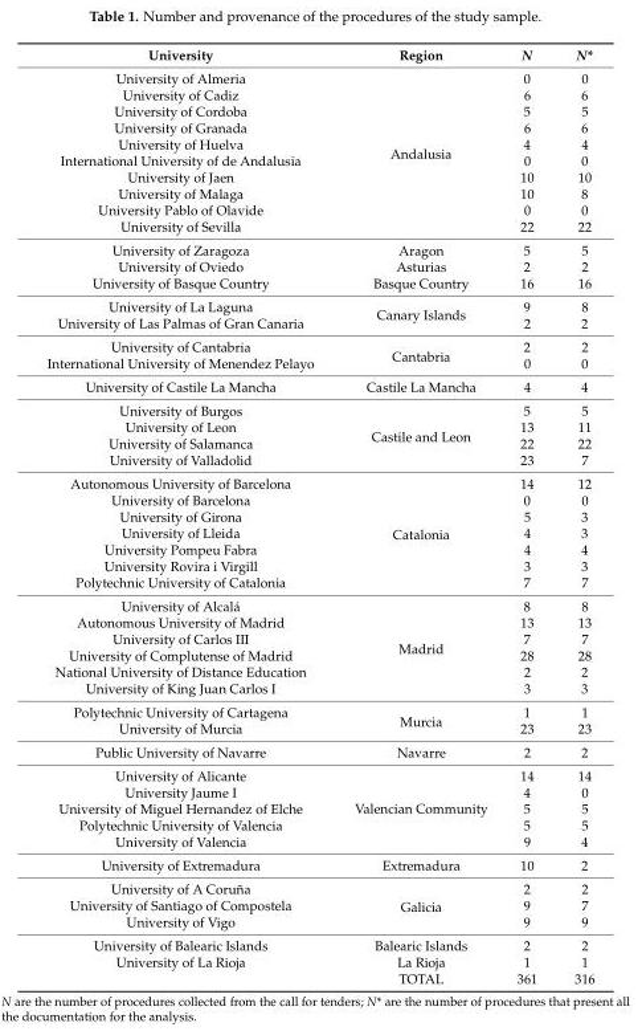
<table><thead><tr><td>University</td><td>Region</td><td>N</td><td>N*</td></tr></thead><tbody><tr><td>University of Almeria</td><td rowspan="10">Andalusia</td><td>0</td><td>0</td></tr><tr><td>University of Cadiz</td><td>6</td><td>6</td></tr><tr><td>University of Cordoba</td><td>5</td><td>5</td></tr><tr><td>University of Granada</td><td>6</td><td>6</td></tr><tr><td>University of Huelva</td><td>4</td><td>4</td></tr><tr><td>International University of de Andalusia</td><td>0</td><td>0</td></tr><tr><td>University of Jaen</td><td>10</td><td>10</td></tr><tr><td>University of Malaga</td><td>10</td><td>8</td></tr><tr><td>University Pablo of Olavide</td><td>0</td><td>0</td></tr><tr><td>University of Sevilla</td><td>22</td><td>22</td></tr><tr><td>University of Zaragoza</td><td>Aragon</td><td>5</td><td>5</td></tr><tr><td>University of Oviedo</td><td>Asturias</td><td>2</td><td>2</td></tr><tr><td>University of Basque Country</td><td>Basque Country</td><td>16</td><td>16</td></tr><tr><td>University of La Laguna</td><td rowspan="2">Canary Islands</td><td>9</td><td>8</td></tr><tr><td>University of Las Palmas of Gran Canaria</td><td>2</td><td>2</td></tr><tr><td>University of Cantabria</td><td rowspan="2">Cantabria</td><td>2</td><td>2</td></tr><tr><td>International University of Menendez Pelayo</td><td>0</td><td>0</td></tr><tr><td>University of Castile La Mancha</td><td>Castile La Mancha</td><td>4</td><td>4</td></tr><tr><td>University of Burgos</td><td rowspan="4">Castile and Leon</td><td>5</td><td>5</td></tr><tr><td>University of Leon</td><td>13</td><td>11</td></tr><tr><td>University of Salamanca</td><td>22</td><td>22</td></tr><tr><td>University of Valladolid</td><td>23</td><td>7</td></tr><tr><td>Autonomous University of Barcelona</td><td rowspan="7">Catalonia</td><td>14</td><td>12</td></tr><tr><td>University of Barcelona</td><td>0</td><td>0</td></tr><tr><td>University of Girona</td><td>5</td><td>3</td></tr><tr><td>University of Lleida</td><td>4</td><td>3</td></tr><tr><td>University Pompeu Fabra</td><td>4</td><td>4</td></tr><tr><td>University Rovira i Virgill</td><td>3</td><td>3</td></tr><tr><td>Polytechnic University of Catalonia</td><td>7</td><td>7</td></tr><tr><td>University of Alcalá</td><td rowspan="6">Madrid</td><td>8</td><td>8</td></tr><tr><td>Autonomous University of Madrid</td><td>13</td><td>13</td></tr><tr><td>University of Carlos III</td><td>7</td><td>7</td></tr><tr><td>University of Complutense of Madrid</td><td>28</td><td>28</td></tr><tr><td>National University of Distance Education</td><td>2</td><td>2</td></tr><tr><td>University of King Juan Carlos I</td><td>3</td><td>3</td></tr><tr><td>Polytechnic University of Cartagena</td><td rowspan="2">Murcia</td><td>1</td><td>1</td></tr><tr><td>University of Murcia</td><td>23</td><td>23</td></tr><tr><td>Public University of Navarre</td><td>Navarre</td><td>2</td><td>2</td></tr><tr><td>University of Alicante</td><td rowspan="5">Valencian Community</td><td>14</td><td>14</td></tr><tr><td>University Jaume I</td><td>4</td><td>0</td></tr><tr><td>University of Miguel Hernandez of Elche</td><td>5</td><td>5</td></tr><tr><td>Polytechnic University of Valencia</td><td>5</td><td>5</td></tr><tr><td>University of Valencia</td><td>9</td><td>4</td></tr><tr><td>University of Extremadura</td><td>Extremadura</td><td>10</td><td>2</td></tr><tr><td>University of A Coruña</td><td rowspan="3">Galicia</td><td>2</td><td>2</td></tr><tr><td>University of Santiago of Compostela</td><td>9</td><td>7</td></tr><tr><td>University of Vigo</td><td>9</td><td>9</td></tr><tr><td>University of Balearic Islands</td><td>Balearic Islands</td><td>2</td><td>2</td></tr><tr><td rowspan="2">University of La Rioja</td><td>La Rioja</td><td>1</td><td>1</td></tr><tr><td>TOTAL</td><td>361</td><td>316</td></tr></tbody></table>